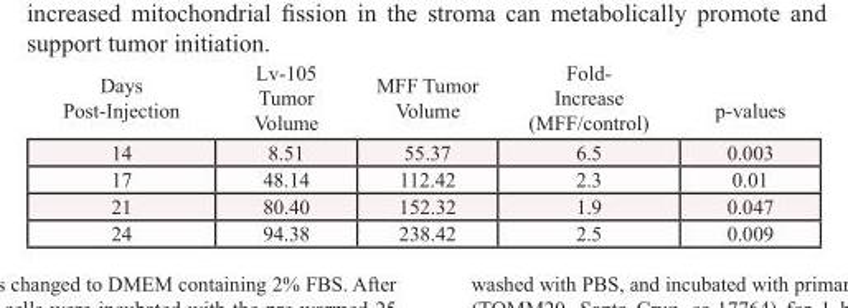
<table><thead><tr><td>Days Post-Injection</td><td>Lv-105 Tumor Volume</td><td>MFF Tumor Volume</td><td>Fold- Increase (MFF/control)</td><td>p-values</td></tr></thead><tbody><tr><td>14</td><td>8.51</td><td>55.37</td><td>6.5</td><td>0.003</td></tr><tr><td>17</td><td>48.14</td><td>112.42</td><td>2.3</td><td>0.01</td></tr><tr><td>21</td><td>80.40</td><td>152.32</td><td>1.9</td><td>0.047</td></tr><tr><td>24</td><td>94.38</td><td>238.42</td><td>2.5</td><td>0.009</td></tr></tbody></table>